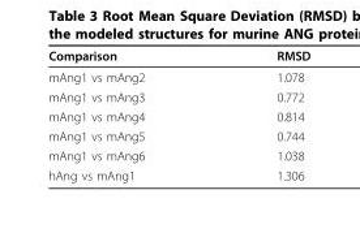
<table><thead><tr><td>Comparison</td><td>RMSD</td></tr></thead><tbody><tr><td>mAng1 vs mAng2</td><td>1.078</td></tr><tr><td>mAng1 vs mAng3</td><td>0.772</td></tr><tr><td>mAng1 vs mAng4</td><td>0.814</td></tr><tr><td>mAng1 vs mAng5</td><td>0.744</td></tr><tr><td>mAng1 vs mAng6</td><td>1.038</td></tr><tr><td>hAng vs mAng1</td><td>1.306</td></tr></tbody></table>